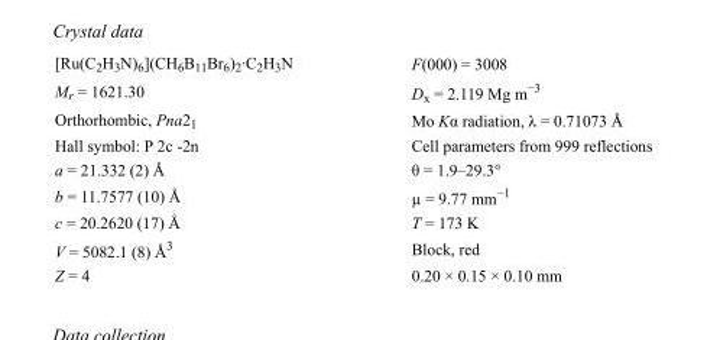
<table><tbody><tr><td>[Ru(C<sub>2</sub>H<sub>3</sub>N)<sub>6</sub>](CH<sub>6</sub>B<sub>11</sub>Br<sub>6</sub>)<sub>2</sub>·C<sub>2</sub>H<sub>3</sub>N</td><td>F(000) = 3008</td></tr><tr><td>M<sub>r</sub> = 1621.30</td><td>D<sub>x</sub> = 2.119 Mg m<sup>−3</sup></td></tr><tr><td>Orthorhombic, Pna2<sub>1</sub></td><td>Mo Kα radiation, λ = 0.71073 Å</td></tr><tr><td>Hall symbol: P 2c -2n</td><td>Cell parameters from 999 reflections</td></tr><tr><td>a = 21.332 (2) Å</td><td>θ = 1.9–29.3°</td></tr><tr><td>b = 11.7577 (10) Å</td><td>µ = 9.77 mm<sup>−1</sup></td></tr><tr><td>c = 20.2620 (17) Å</td><td>T = 173 K</td></tr><tr><td>V = 5082.1 (8) Å<sup>3</sup></td><td>Block, red</td></tr><tr><td>Z = 4</td><td>0.20 × 0.15 × 0.10 mm</td></tr></tbody></table>